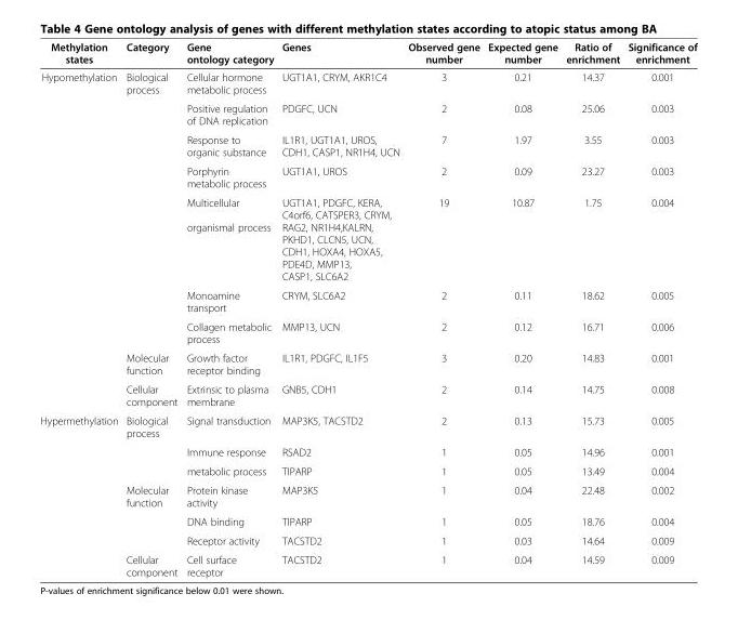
<table><thead><tr><td>Methylation states</td><td>Category</td><td>Gene ontology category</td><td>Genes</td><td>Observed gene number</td><td>Expected gene number</td><td>Ratio of enrichment</td><td>Significance of enrichment</td></tr></thead><tbody><tr><td rowspan="9">Hypomethylation</td><td>Biological process</td><td>Cellular hormone metabolic process</td><td>UGT1A1, CRYM, AKR1C4</td><td>3</td><td>0.21</td><td>14.37</td><td>0.001</td></tr><tr><td></td><td>Positive regulation of DNA replication</td><td>PDGFC, UCN</td><td>2</td><td>0.08</td><td>25.06</td><td>0.003</td></tr><tr><td></td><td>Response to organic substance</td><td>IL1R1, UGT1A1, UROS, CDH1, CASP1, NR1H4, UCN</td><td>7</td><td>1.97</td><td>3.55</td><td>0.003</td></tr><tr><td></td><td>Porphyrin metabolic process</td><td>UGT1A1, UROS</td><td>2</td><td>0.09</td><td>23.27</td><td>0.003</td></tr><tr><td></td><td>Multicellular organismal process</td><td>UGT1A1, PDGFC, KERA, C4orf6, CATSPER3, CRYM, RAG2, NR1H4,KALRN, PKHD1, CLCN5, UCN, CDH1, HOXA4, HOXA5, PDE4D, MMP13, CASP1, SLC6A2</td><td>19</td><td>10.87</td><td>1.75</td><td>0.004</td></tr><tr><td></td><td>Monoamine transport</td><td>CRYM, SLC6A2</td><td>2</td><td>0.11</td><td>18.62</td><td>0.005</td></tr><tr><td></td><td>Collagen metabolic process</td><td>MMP13, UCN</td><td>2</td><td>0.12</td><td>16.71</td><td>0.006</td></tr><tr><td>Molecular function</td><td>Growth factor receptor binding</td><td>IL1R1, PDGFC, IL1F5</td><td>3</td><td>0.20</td><td>14.83</td><td>0.001</td></tr><tr><td>Cellular component</td><td>Extrinsic to plasma membrane</td><td>GNB5, CDH1</td><td>2</td><td>0.14</td><td>14.75</td><td>0.008</td></tr><tr><td rowspan="7">Hypermethylation</td><td>Biological process</td><td>Signal transduction</td><td>MAP3K5, TACSTD2</td><td>2</td><td>0.13</td><td>15.73</td><td>0.005</td></tr><tr><td></td><td>Immune response</td><td>RSAD2</td><td>1</td><td>0.05</td><td>14.96</td><td>0.001</td></tr><tr><td></td><td>metabolic process</td><td>TIPARP</td><td>1</td><td>0.05</td><td>13.49</td><td>0.004</td></tr><tr><td>Molecular function</td><td>Protein kinase activity</td><td>MAP3K5</td><td>1</td><td>0.04</td><td>22.48</td><td>0.002</td></tr><tr><td></td><td>DNA binding</td><td>TIPARP</td><td>1</td><td>0.05</td><td>18.76</td><td>0.004</td></tr><tr><td></td><td>Receptor activity</td><td>TACSTD2</td><td>1</td><td>0.03</td><td>14.64</td><td>0.009</td></tr><tr><td>Cellular component</td><td>Cell surface receptor</td><td>TACSTD2</td><td>1</td><td>0.04</td><td>14.59</td><td>0.009</td></tr></tbody></table>